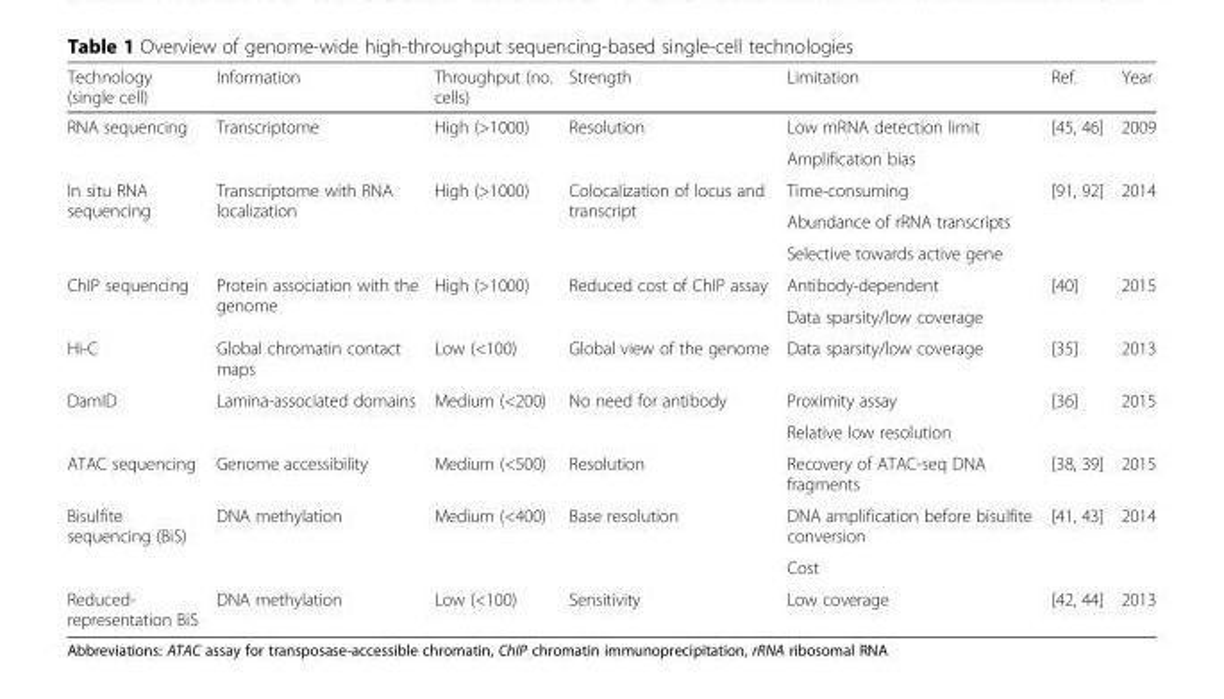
<table><thead><tr><td>Technology (single cell)</td><td>Information</td><td>Throughput (no. cells)</td><td>Strength</td><td>Limitation</td><td>Ref.</td><td>Year</td></tr></thead><tbody><tr><td rowspan="2">RNA sequencing</td><td rowspan="2">Transcriptome</td><td rowspan="2">High (&gt;1000)</td><td rowspan="2">Resolution</td><td>Low mRNA detection limit</td><td rowspan="2">[45, 46]</td><td rowspan="2">2009</td></tr><tr><td>Amplification bias</td></tr><tr><td rowspan="3">In situ RNA sequencing</td><td rowspan="3">Transcriptome with RNA localization</td><td rowspan="3">High (&gt;1000)</td><td rowspan="3">Colocalization of locus and transcript</td><td>Time-consuming</td><td rowspan="3">[91, 92]</td><td rowspan="3">2014</td></tr><tr><td>Abundance of rRNA transcripts</td></tr><tr><td>Selective towards active gene</td></tr><tr><td rowspan="2">ChIP sequencing</td><td rowspan="2">Protein association with the genome</td><td rowspan="2">High (&gt;1000)</td><td rowspan="2">Reduced cost of ChIP assay</td><td>Antibody-dependent</td><td rowspan="2">[40]</td><td rowspan="2">2015</td></tr><tr><td>Data sparsity/low coverage</td></tr><tr><td>Hi-C</td><td>Global chromatin contact maps</td><td>Low (&lt;100)</td><td>Global view of the genome</td><td>Data sparsity/low coverage</td><td>[35]</td><td>2013</td></tr><tr><td rowspan="2">DamID</td><td>Lamina-associated domains</td><td>Medium (&lt;200)</td><td>No need for antibody</td><td>Proximity assay</td><td>[36]</td><td>2015</td></tr><tr><td></td><td></td><td></td><td>Relative low resolution</td><td></td><td></td></tr><tr><td>ATAC sequencing</td><td>Genome accessibility</td><td>Medium (&lt;500)</td><td>Resolution</td><td>Recovery of ATAC-seq DNA fragments</td><td>[38, 39]</td><td>2015</td></tr><tr><td rowspan="2">Bisulfite sequencing (BiS)</td><td rowspan="2">DNA methylation</td><td rowspan="2">Medium (&lt;400)</td><td rowspan="2">Base resolution</td><td>DNA amplification before bisulfite conversion</td><td rowspan="2">[41, 43]</td><td rowspan="2">2014</td></tr><tr><td>Cost</td></tr><tr><td>Reduced- representation BiS</td><td>DNA methylation</td><td>Low (&lt;100)</td><td>Sensitivity</td><td>Low coverage</td><td>[42, 44]</td><td>2013</td></tr></tbody></table>